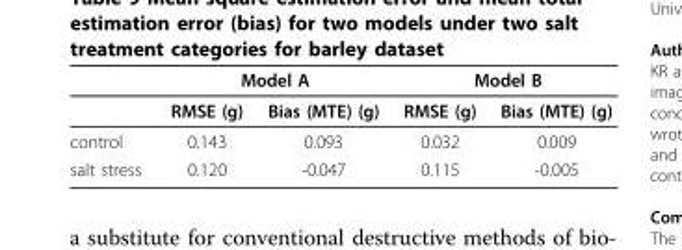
<table><thead><tr><td rowspan="2"></td><td colspan="2">Model A</td><td colspan="2">Model B</td></tr><tr><td>RMSE (g)</td><td>Bias (MTE) (g)</td><td>RMSE (g)</td><td>Bias (MTE) (g)</td></tr></thead><tbody><tr><td>control</td><td>0.143</td><td>0.093</td><td>0.032</td><td>0.009</td></tr><tr><td>salt stress</td><td>0.120</td><td>-0.047</td><td>0.115</td><td>-0.005</td></tr></tbody></table>